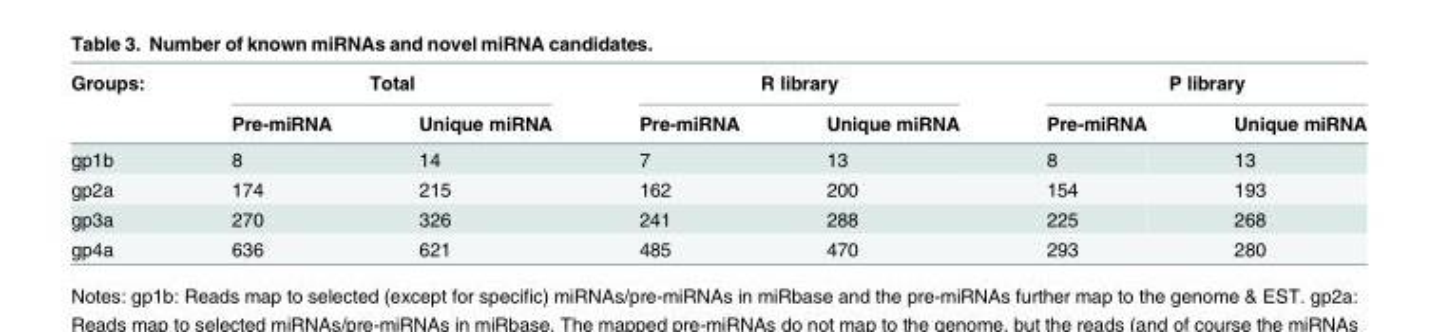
<table><thead><tr><td rowspan="2">Groups:</td><td colspan="2">Total</td><td colspan="2">R library</td><td colspan="2">P library</td></tr><tr><td>Pre-miRNA</td><td>Unique miRNA</td><td>Pre-miRNA</td><td>Unique miRNA</td><td>Pre-miRNA</td><td>Unique miRNA</td></tr></thead><tbody><tr><td>gp1b</td><td>8</td><td>14</td><td>7</td><td>13</td><td>8</td><td>13</td></tr><tr><td>gp2a</td><td>174</td><td>215</td><td>162</td><td>200</td><td>154</td><td>193</td></tr><tr><td>gp3a</td><td>270</td><td>326</td><td>241</td><td>288</td><td>225</td><td>268</td></tr><tr><td>gp4a</td><td>636</td><td>621</td><td>485</td><td>470</td><td>293</td><td>280</td></tr></tbody></table>